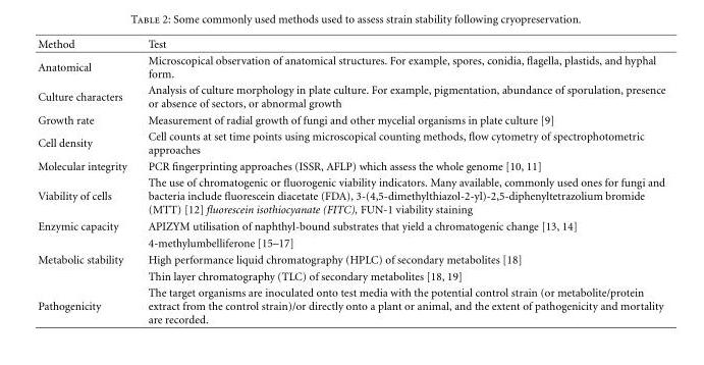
<table><thead><tr><td>Method</td><td>Test</td></tr></thead><tbody><tr><td>Anatomical</td><td>Microscopical observation of anatomical structures. For example, spores, conidia, flagella, plastids, and hyphal form.</td></tr><tr><td>Culture characters</td><td>Analysis of culture morphology in plate culture. For example, pigmentation, abundance of sporulation, presence or absence of sectors, or abnormal growth</td></tr><tr><td>Growth rate</td><td>Measurement of radial growth of fungi and other mycelial organisms in plate culture [9]</td></tr><tr><td>Cell density</td><td>Cell counts at set time points using microscopical counting methods, flow cytometry of spectrophotometric approaches</td></tr><tr><td>Molecular integrity</td><td>PCR fingerprinting approaches (ISSR, AFLP) which assess the whole genome [10, 11]</td></tr><tr><td>Viability of cells</td><td>The use of chromatogenic or fluorogenic viability indicators. Many available, commonly used ones for fungi and bacteria include fluorescein diacetate (FDA), 3-(4,5-dimethylthiazol-2-yl)-2,5-diphenyltetrazolium bromide (MTT) [12] fluorescein isothiocyanate (FITC), FUN-1 viability staining</td></tr><tr><td rowspan="2">Enzymic capacity</td><td>APIZYM utilisation of naphthyl-bound substrates that yield a chromatogenic change [13, 14]</td></tr><tr><td>4-methylumbelliferone [15–17]</td></tr><tr><td rowspan="2">Metabolic stability</td><td>High performance liquid chromatography (HPLC) of secondary metabolites [18]</td></tr><tr><td>Thin layer chromatography (TLC) of secondary metabolites [18, 19]</td></tr><tr><td>Pathogenicity</td><td>The target organisms are inoculated onto test media with the potential control strain (or metabolite/protein extract from the control strain)/or directly onto a plant or animal, and the extent of pathogenicity and mortality are recorded.</td></tr></tbody></table>